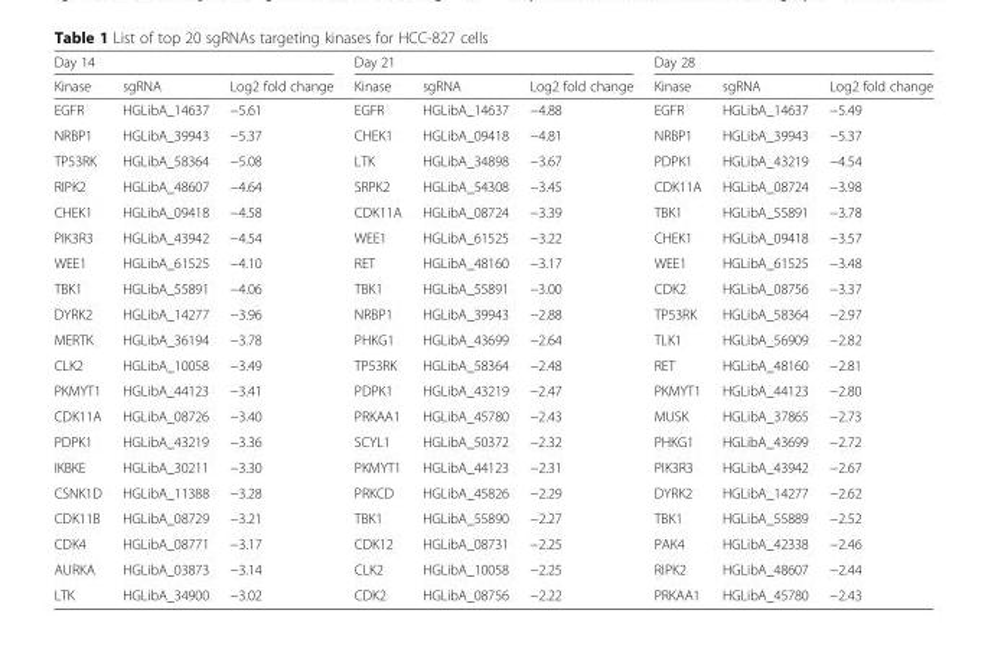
<table><thead><tr><td colspan="3">Day 14</td><td colspan="3">Day 21</td><td colspan="3">Day 28</td></tr><tr><td>Kinase</td><td>sgRNA</td><td>Log2 fold change</td><td>Kinase</td><td>sgRNA</td><td>Log2 fold change</td><td>Kinase</td><td>sgRNA</td><td>Log2 fold change</td></tr></thead><tbody><tr><td>EGFR</td><td>HGLibA_14637</td><td>−5.61</td><td>EGFR</td><td>HGLibA_14637</td><td>−4.88</td><td>EGFR</td><td>HGLibA_14637</td><td>−5.49</td></tr><tr><td>NRBP1</td><td>HGLibA_39943</td><td>−5.37</td><td>CHEK1</td><td>HGLibA_09418</td><td>−4.81</td><td>NRBP1</td><td>HGLibA_39943</td><td>−5.37</td></tr><tr><td>TP53RK</td><td>HGLibA_58364</td><td>−5.08</td><td>LTK</td><td>HGLibA_34898</td><td>−3.67</td><td>PDPK1</td><td>HGLibA_43219</td><td>−4.54</td></tr><tr><td>RIPK2</td><td>HGLibA_48607</td><td>−4.64</td><td>SRPK2</td><td>HGLibA_54308</td><td>−3.45</td><td>CDK11A</td><td>HGLibA_08724</td><td>−3.98</td></tr><tr><td>CHEK1</td><td>HGLibA_09418</td><td>−4.58</td><td>CDK11A</td><td>HGLibA_08724</td><td>−3.39</td><td>TBK1</td><td>HGLibA_55891</td><td>−3.78</td></tr><tr><td>PIK3R3</td><td>HGLibA_43942</td><td>−4.54</td><td>WEE1</td><td>HGLibA_61525</td><td>−3.22</td><td>CHEK1</td><td>HGLibA_09418</td><td>−3.57</td></tr><tr><td>WEE1</td><td>HGLibA_61525</td><td>−4.10</td><td>RET</td><td>HGLibA_48160</td><td>−3.17</td><td>WEE1</td><td>HGLibA_61525</td><td>−3.48</td></tr><tr><td>TBK1</td><td>HGLibA_55891</td><td>−4.06</td><td>TBK1</td><td>HGLibA_55891</td><td>−3.00</td><td>CDK2</td><td>HGLibA_08756</td><td>−3.37</td></tr><tr><td>DYRK2</td><td>HGLibA_14277</td><td>−3.96</td><td>NRBP1</td><td>HGLibA_39943</td><td>−2.88</td><td>TP53RK</td><td>HGLibA_58364</td><td>−2.97</td></tr><tr><td>MERTK</td><td>HGLibA_36194</td><td>−3.78</td><td>PHKG1</td><td>HGLibA_43699</td><td>−2.64</td><td>TLK1</td><td>HGLibA_56909</td><td>−2.82</td></tr><tr><td>CLK2</td><td>HGLibA_10058</td><td>−3.49</td><td>TP53RK</td><td>HGLibA_58364</td><td>−2.48</td><td>RET</td><td>HGLibA_48160</td><td>−2.81</td></tr><tr><td>PKMYT1</td><td>HGLibA_44123</td><td>−3.41</td><td>PDPK1</td><td>HGLibA_43219</td><td>−2.47</td><td>PKMYT1</td><td>HGLibA_44123</td><td>−2.80</td></tr><tr><td>CDK11A</td><td>HGLibA_08726</td><td>−3.40</td><td>PRKAA1</td><td>HGLibA_45780</td><td>−2.43</td><td>MUSK</td><td>HGLibA_37865</td><td>−2.73</td></tr><tr><td>PDPK1</td><td>HGLibA_43219</td><td>−3.36</td><td>SCYL1</td><td>HGLibA_50372</td><td>−2.32</td><td>PHKG1</td><td>HGLibA_43699</td><td>−2.72</td></tr><tr><td>IKBKE</td><td>HGLibA_30211</td><td>−3.30</td><td>PKMYT1</td><td>HGLibA_44123</td><td>−2.31</td><td>PIK3R3</td><td>HGLibA_43942</td><td>−2.67</td></tr><tr><td>CSNK1D</td><td>HGLibA_11388</td><td>−3.28</td><td>PRKCD</td><td>HGLibA_45826</td><td>−2.29</td><td>DYRK2</td><td>HGLibA_14277</td><td>−2.62</td></tr><tr><td>CDK11B</td><td>HGLibA_08729</td><td>−3.21</td><td>TBK1</td><td>HGLibA_55890</td><td>−2.27</td><td>TBK1</td><td>HGLibA_55889</td><td>−2.52</td></tr><tr><td>CDK4</td><td>HGLibA_08771</td><td>−3.17</td><td>CDK12</td><td>HGLibA_08731</td><td>−2.25</td><td>PAK4</td><td>HGLibA_42338</td><td>−2.46</td></tr><tr><td>AURKA</td><td>HGLibA_03873</td><td>−3.14</td><td>CLK2</td><td>HGLibA_10058</td><td>−2.25</td><td>RIPK2</td><td>HGLibA_48607</td><td>−2.44</td></tr><tr><td>LTK</td><td>HGLibA_34900</td><td>−3.02</td><td>CDK2</td><td>HGLibA_08756</td><td>−2.22</td><td>PRKAA1</td><td>HGLibA_45780</td><td>−2.43</td></tr></tbody></table>